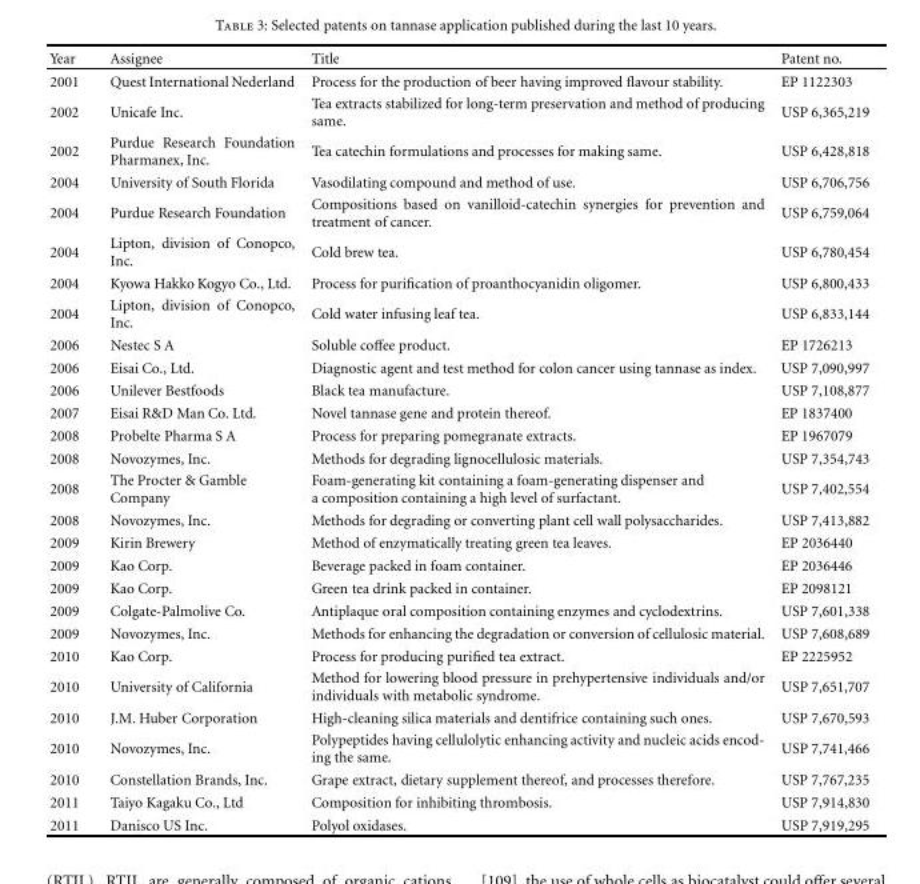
<table><thead><tr><td>Year</td><td>Assignee</td><td>Title</td><td>Patent no.</td></tr></thead><tbody><tr><td>2001</td><td>Quest International Nederland</td><td>Process for the production of beer having improved flavour stability.</td><td>EP 1122303</td></tr><tr><td>2002</td><td>Unicafe Inc.</td><td>Tea extracts stabilized for long-term preservation and method of producing same.</td><td>USP 6,365,219</td></tr><tr><td>2002</td><td>Purdue Research Foundation Pharmanex, Inc.</td><td>Tea catechin formulations and processes for making same.</td><td>USP 6,428,818</td></tr><tr><td>2004</td><td>University of South Florida</td><td>Vasodilating compound and method of use.</td><td>USP 6,706,756</td></tr><tr><td>2004</td><td>Purdue Research Foundation</td><td>Compositions based on vanilloid-catechin synergies for prevention and treatment of cancer.</td><td>USP 6,759,064</td></tr><tr><td>2004</td><td>Lipton, division of Conopco, Inc.</td><td>Cold brew tea.</td><td>USP 6,780,454</td></tr><tr><td>2004</td><td>Kyowa Hakko Kogyo Co., Ltd.</td><td>Process for purification of proanthocyanidin oligomer.</td><td>USP 6,800,433</td></tr><tr><td>2004</td><td>Lipton, division of Conopco, Inc.</td><td>Cold water infusing leaf tea.</td><td>USP 6,833,144</td></tr><tr><td>2006</td><td>Nestec S A</td><td>Soluble coffee product.</td><td>EP 1726213</td></tr><tr><td>2006</td><td>Eisai Co., Ltd.</td><td>Diagnostic agent and test method for colon cancer using tannase as index.</td><td>USP 7,090,997</td></tr><tr><td>2006</td><td>Unilever Bestfoods</td><td>Black tea manufacture.</td><td>USP 7,108,877</td></tr><tr><td>2007</td><td>Eisai R&amp;D Man Co. Ltd.</td><td>Novel tannase gene and protein thereof.</td><td>EP 1837400</td></tr><tr><td>2008</td><td>Probelte Pharma S A</td><td>Process for preparing pomegranate extracts.</td><td>EP 1967079</td></tr><tr><td>2008</td><td>Novozymes, Inc.</td><td>Methods for degrading lignocellulosic materials.</td><td>USP 7,354,743</td></tr><tr><td>2008</td><td>The Procter &amp; Gamble Company</td><td>Foam-generating kit containing a foam-generating dispenser and a composition containing a high level of surfactant.</td><td>USP 7,402,554</td></tr><tr><td>2008</td><td>Novozymes, Inc.</td><td>Methods for degrading or converting plant cell wall polysaccharides.</td><td>USP 7,413,882</td></tr><tr><td>2009</td><td>Kirin Brewery</td><td>Method of enzymatically treating green tea leaves.</td><td>EP 2036440</td></tr><tr><td>2009</td><td>Kao Corp.</td><td>Beverage packed in foam container.</td><td>EP 2036446</td></tr><tr><td>2009</td><td>Kao Corp.</td><td>Green tea drink packed in container.</td><td>EP 2098121</td></tr><tr><td>2009</td><td>Colgate-Palmolive Co.</td><td>Antiplaque oral composition containing enzymes and cyclodextrins.</td><td>USP 7,601,338</td></tr><tr><td>2009</td><td>Novozymes, Inc.</td><td>Methods for enhancing the degradation or conversion of cellulosic material.</td><td>USP 7,608,689</td></tr><tr><td>2010</td><td>Kao Corp.</td><td>Process for producing purified tea extract.</td><td>EP 2225952</td></tr><tr><td>2010</td><td>University of California</td><td>Method for lowering blood pressure in prehypertensive individuals and/or individuals with metabolic syndrome.</td><td>USP 7,651,707</td></tr><tr><td>2010</td><td>J.M. Huber Corporation</td><td>High-cleaning silica materials and dentifrice containing such ones.</td><td>USP 7,670,593</td></tr><tr><td>2010</td><td>Novozymes, Inc.</td><td>Polypeptides having cellulolytic enhancing activity and nucleic acids encod- ing the same.</td><td>USP 7,741,466</td></tr><tr><td>2010</td><td>Constellation Brands, Inc.</td><td>Grape extract, dietary supplement thereof, and processes therefore.</td><td>USP 7,767,235</td></tr><tr><td>2011</td><td>Taiyo Kagaku Co., Ltd</td><td>Composition for inhibiting thrombosis.</td><td>USP 7,914,830</td></tr><tr><td>2011</td><td>Danisco US Inc.</td><td>Polyol oxidases.</td><td>USP 7,919,295</td></tr></tbody></table>